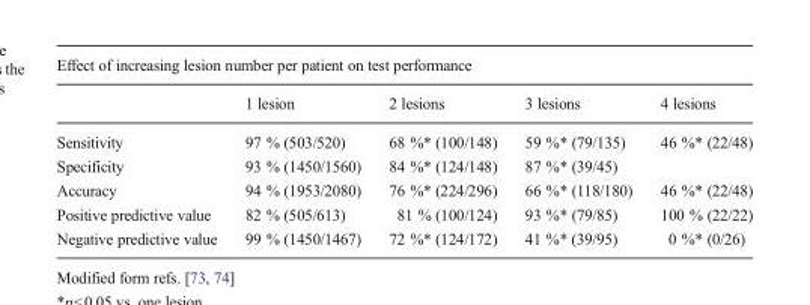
<table><thead><tr><td colspan="5">Effect of increasing lesion number per patient on test performance</td></tr><tr><td></td><td>1 lesion</td><td>2 lesions</td><td>3 lesions</td><td>4 lesions</td></tr></thead><tbody><tr><td>Sensitivity</td><td>97 % (503/520)</td><td>68 %* (100/148)</td><td>59 %* (79/135)</td><td>46 %* (22/48)</td></tr><tr><td>Specificity</td><td>93 % (1450/1560)</td><td>84 %* (124/148)</td><td>87 %* (39/45)</td><td></td></tr><tr><td>Accuracy</td><td>94 % (1953/2080)</td><td>76 %* (224/296)</td><td>66 %* (118/180)</td><td>46 %* (22/48)</td></tr><tr><td>Positive predictive value</td><td>82 % (505/613)</td><td>81 % (100/124)</td><td>93 %* (79/85)</td><td>100 % (22/22)</td></tr><tr><td>Negative predictive value</td><td>99 % (1450/1467)</td><td>72 %* (124/172)</td><td>41 %* (39/95)</td><td>0 %* (0/26)</td></tr></tbody></table>